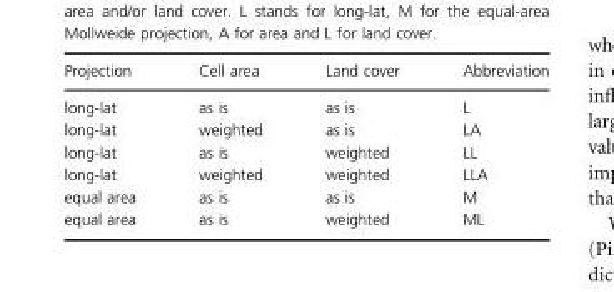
<table><thead><tr><td>Projection</td><td>Cell area</td><td>Land cover</td><td>Abbreviation</td></tr></thead><tbody><tr><td>long-lat</td><td>as is</td><td>as is</td><td>L</td></tr><tr><td>long-lat</td><td>weighted</td><td>as is</td><td>LA</td></tr><tr><td>long-lat</td><td>as is</td><td>weighted</td><td>LL</td></tr><tr><td>long-lat</td><td>weighted</td><td>weighted</td><td>LLA</td></tr><tr><td>equal area</td><td>as is</td><td>as is</td><td>M</td></tr><tr><td>equal area</td><td>as is</td><td>weighted</td><td>ML</td></tr></tbody></table>